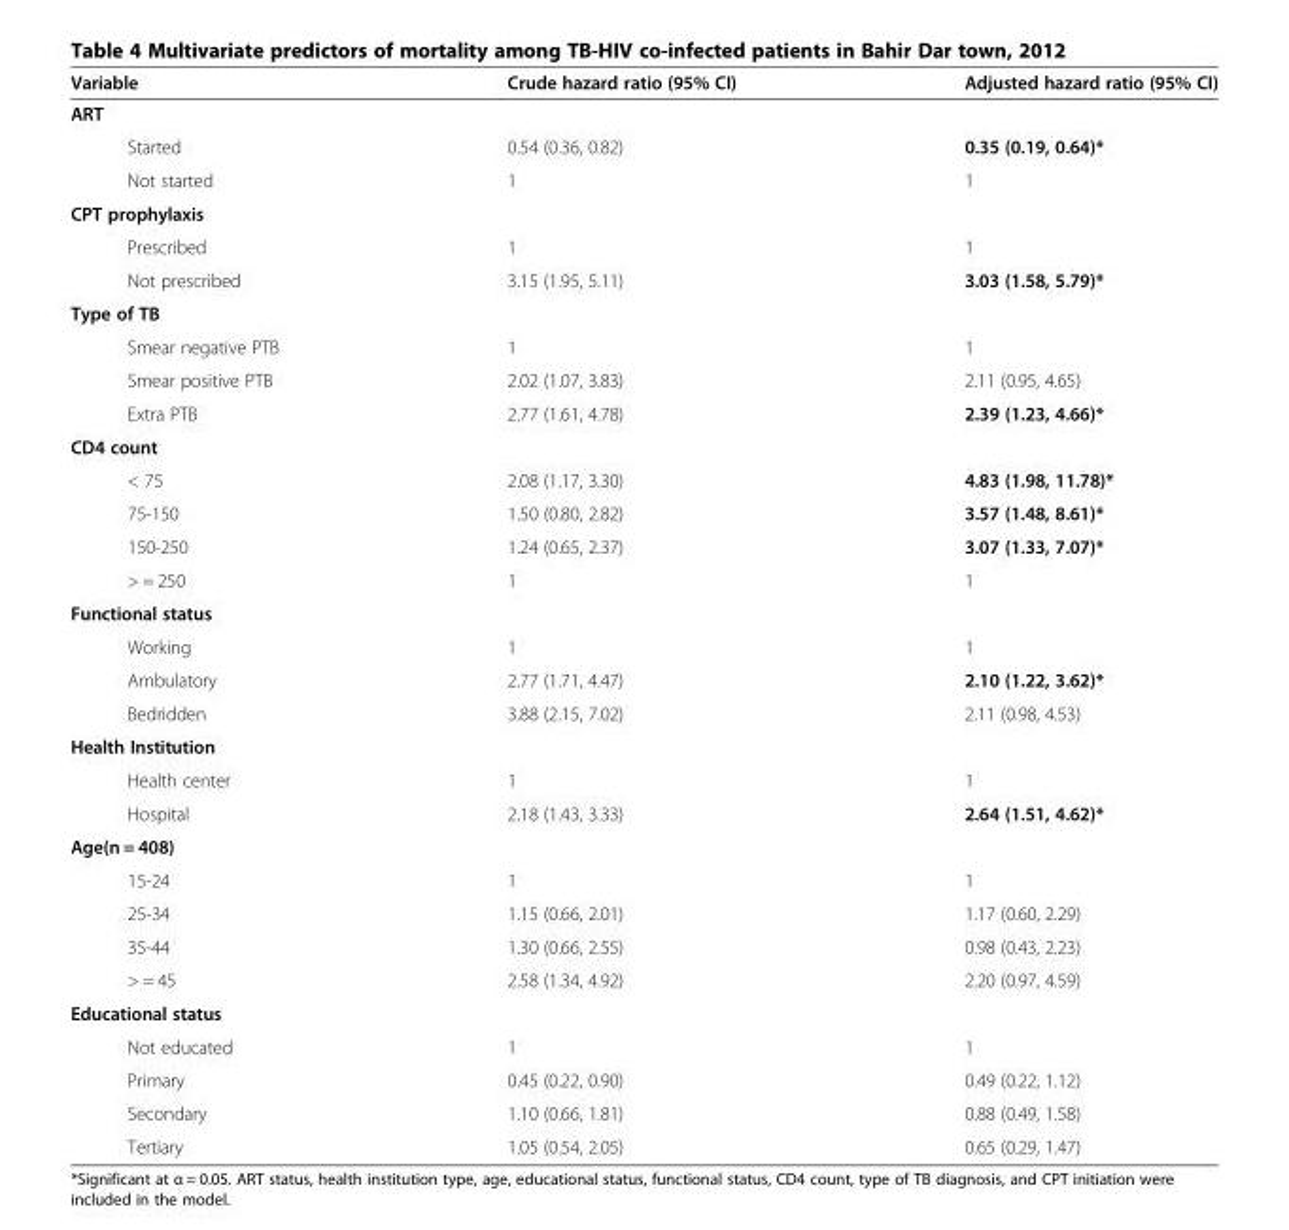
<table><thead><tr><td>Variable</td><td>Crude hazard ratio (95% CI)</td><td>Adjusted hazard ratio (95% CI)</td></tr></thead><tbody><tr><td colspan="3">ART</td></tr><tr><td>Started</td><td>0.54 (0.36, 0.82)</td><td>0.35 (0.19, 0.64)*</td></tr><tr><td>Not started</td><td>1</td><td>1</td></tr><tr><td colspan="3">CPT prophylaxis</td></tr><tr><td>Prescribed</td><td>1</td><td>1</td></tr><tr><td>Not prescribed</td><td>3.15 (1.95, 5.11)</td><td>3.03 (1.58, 5.79)*</td></tr><tr><td colspan="3">Type of TB</td></tr><tr><td>Smear negative PTB</td><td>1</td><td>1</td></tr><tr><td>Smear positive PTB</td><td>2.02 (1.07, 3.83)</td><td>2.11 (0.95, 4.65)</td></tr><tr><td>Extra PTB</td><td>2.77 (1.61, 4.78)</td><td>2.39 (1.23, 4.66)*</td></tr><tr><td colspan="3">CD4 count</td></tr><tr><td>&lt; 75</td><td>2.08 (1.17, 3.30)</td><td>4.83 (1.98, 11.78)*</td></tr><tr><td>75-150</td><td>1.50 (0.80, 2.82)</td><td>3.57 (1.48, 8.61)*</td></tr><tr><td>150-250</td><td>1.24 (0.65, 2.37)</td><td>3.07 (1.33, 7.07)*</td></tr><tr><td>&gt; = 250</td><td>1</td><td>1</td></tr><tr><td colspan="3">Functional status</td></tr><tr><td>Working</td><td>1</td><td>1</td></tr><tr><td>Ambulatory</td><td>2.77 (1.71, 4.47)</td><td>2.10 (1.22, 3.62)*</td></tr><tr><td>Bedridden</td><td>3.88 (2.15, 7.02)</td><td>2.11 (0.98, 4.53)</td></tr><tr><td colspan="3">Health Institution</td></tr><tr><td>Health center</td><td>1</td><td>1</td></tr><tr><td>Hospital</td><td>2.18 (1.43, 3.33)</td><td>2.64 (1.51, 4.62)*</td></tr><tr><td colspan="3">Age(n = 408)</td></tr><tr><td>15-24</td><td>1</td><td>1</td></tr><tr><td>25-34</td><td>1.15 (0.66, 2.01)</td><td>1.17 (0.60, 2.29)</td></tr><tr><td>35-44</td><td>1.30 (0.66, 2.55)</td><td>0.98 (0.43, 2.23)</td></tr><tr><td>&gt; = 45</td><td>2.58 (1.34, 4.92)</td><td>2.20 (0.97, 4.59)</td></tr><tr><td colspan="3">Educational status</td></tr><tr><td>Not educated</td><td>1</td><td>1</td></tr><tr><td>Primary</td><td>0.45 (0.22, 0.90)</td><td>0.49 (0.22, 1.12)</td></tr><tr><td>Secondary</td><td>1.10 (0.66, 1.81)</td><td>0.88 (0.49, 1.58)</td></tr><tr><td>Tertiary</td><td>1.05 (0.54, 2.05)</td><td>0.65 (0.29, 1.47)</td></tr></tbody></table>